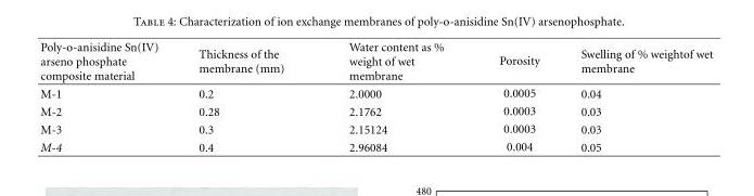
<table><thead><tr><td>Poly-o-anisidine Sn(IV) arseno phosphate composite material</td><td>Thickness of the membrane (mm)</td><td>Water content as % weight of wet membrane</td><td>Porosity</td><td>Swelling of % weightof wet membrane</td></tr></thead><tbody><tr><td>M-1</td><td>0.2</td><td>2.0000</td><td>0.0005</td><td>0.04</td></tr><tr><td>M-2</td><td>0.28</td><td>2.1762</td><td>0.0003</td><td>0.03</td></tr><tr><td>M-3</td><td>0.3</td><td>2.15124</td><td>0.0003</td><td>0.03</td></tr><tr><td>M-4</td><td>0.4</td><td>2.96084</td><td>0.004</td><td>0.05</td></tr></tbody></table>